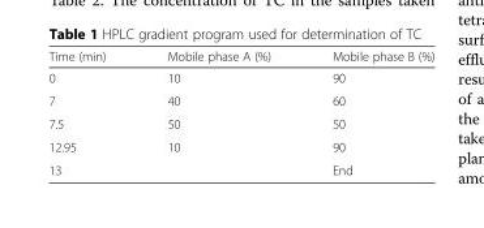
<table><thead><tr><td>Time (min)</td><td>Mobile phase A (%)</td><td>Mobile phase B (%)</td></tr></thead><tbody><tr><td>0</td><td>10</td><td>90</td></tr><tr><td>7</td><td>40</td><td>60</td></tr><tr><td>7.5</td><td>50</td><td>50</td></tr><tr><td>12.95</td><td>10</td><td>90</td></tr><tr><td>13</td><td></td><td>End</td></tr></tbody></table>